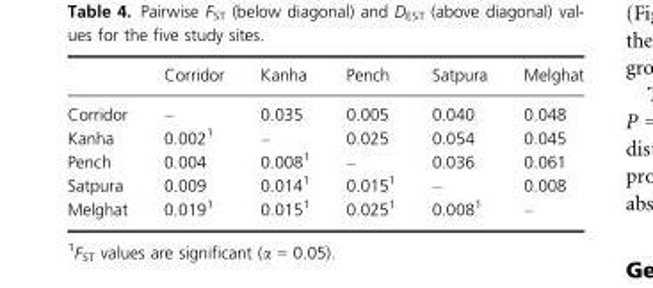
<table><thead><tr><td></td><td>Corridor</td><td>Kanha</td><td>Pench</td><td>Satpura</td><td>Melghat</td></tr></thead><tbody><tr><td>Corridor</td><td>–</td><td>0.035</td><td>0.005</td><td>0.040</td><td>0.048</td></tr><tr><td>Kanha</td><td>0.002<sup>1</sup></td><td>–</td><td>0.025</td><td>0.054</td><td>0.045</td></tr><tr><td>Pench</td><td>0.004</td><td>0.008<sup>1</sup></td><td>–</td><td>0.036</td><td>0.061</td></tr><tr><td>Satpura</td><td>0.009</td><td>0.014<sup>1</sup></td><td>0.015<sup>1</sup></td><td>–</td><td>0.008</td></tr><tr><td>Melghat</td><td>0.019<sup>1</sup></td><td>0.015<sup>1</sup></td><td>0.025<sup>1</sup></td><td>0.008<sup>1</sup></td><td>–</td></tr></tbody></table>